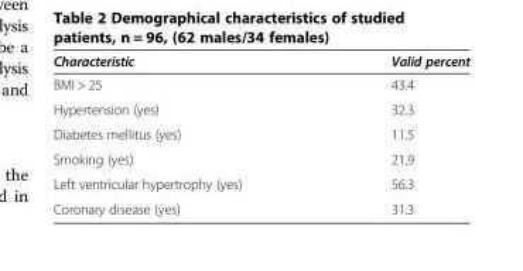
<table><thead><tr><td>Characteristic</td><td>Valid percent</td></tr></thead><tbody><tr><td>BMI &gt; 25</td><td>43.4</td></tr><tr><td>Hypertension (yes)</td><td>32.3</td></tr><tr><td>Diabetes mellitus (yes)</td><td>11.5</td></tr><tr><td>Smoking (yes)</td><td>21.9</td></tr><tr><td>Left ventricular hypertrophy (yes)</td><td>56.3</td></tr><tr><td>Coronary disease (yes)</td><td>31.3</td></tr></tbody></table>